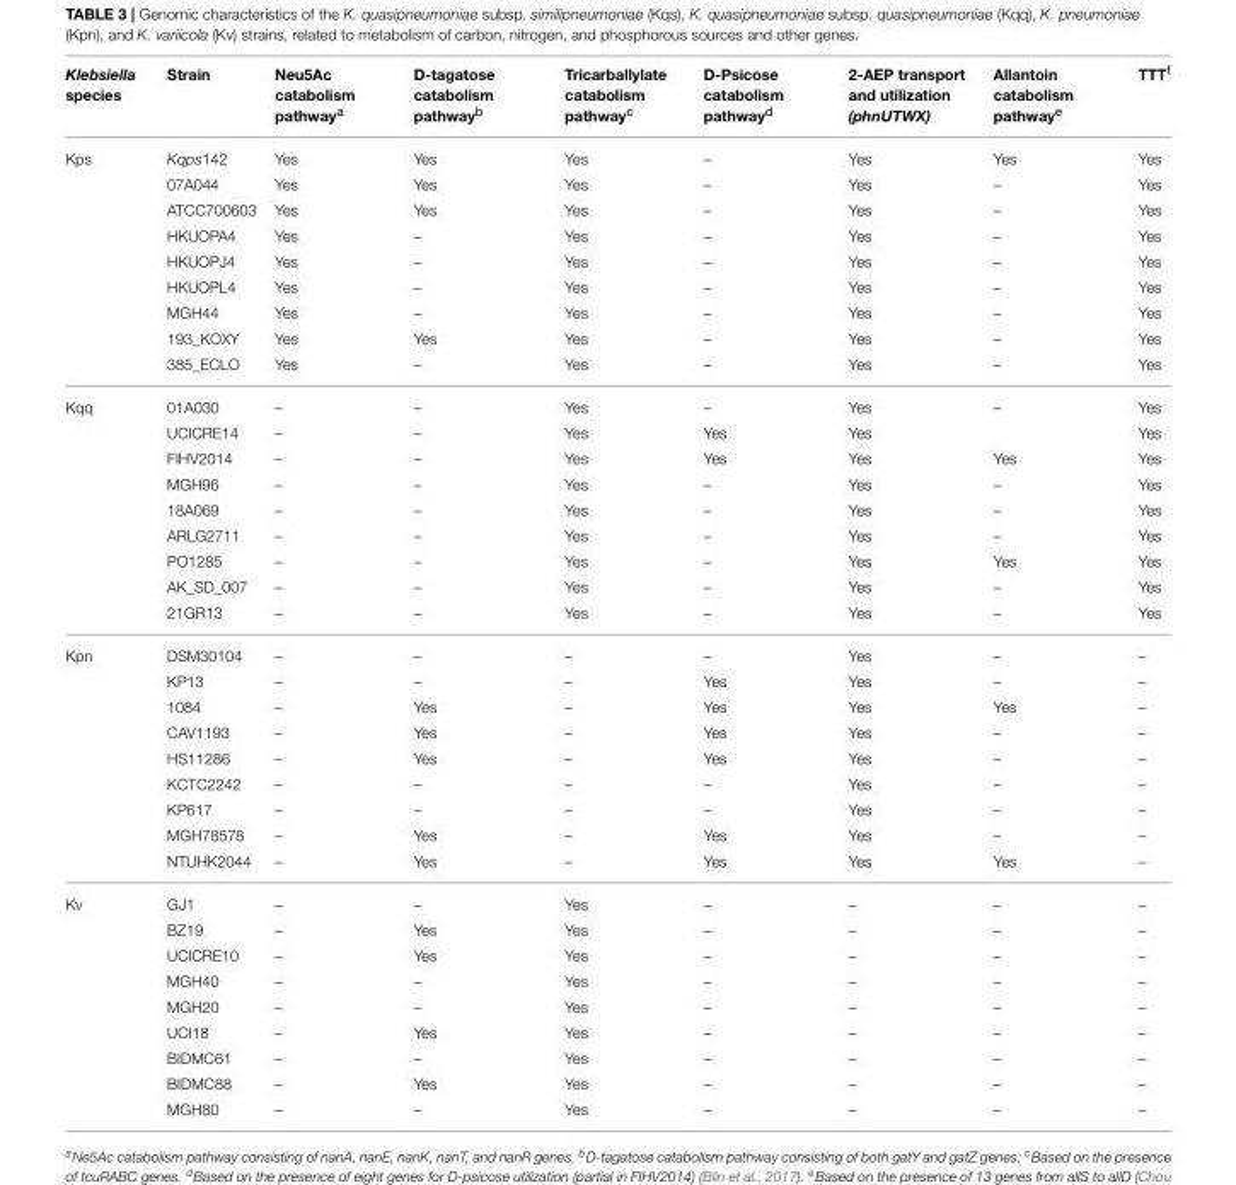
<table><thead><tr><td>Klebsiella species</td><td>Strain</td><td>Neu5Ac catabolism pathway<sup>a</sup></td><td>D-tagatose catabolism pathway<sup>b</sup></td><td>Tricarballylate catabolism pathway<sup>c</sup></td><td>D-Psicose catabolism pathway<sup>d</sup></td><td>2-AEP transport and utilization (phnUTWX)</td><td>Allantoin catabolism pathway<sup>e</sup></td><td>TTT<sup>f</sup></td></tr></thead><tbody><tr><td rowspan="9">Kps</td><td>Kqps142</td><td>Yes</td><td>Yes</td><td>Yes</td><td>–</td><td>Yes</td><td>Yes</td><td>Yes</td></tr><tr><td>07A044</td><td>Yes</td><td>Yes</td><td>Yes</td><td>–</td><td>Yes</td><td>–</td><td>Yes</td></tr><tr><td>ATCC700603</td><td>Yes</td><td>Yes</td><td>Yes</td><td>–</td><td>Yes</td><td>–</td><td>Yes</td></tr><tr><td>HKUOPA4</td><td>Yes</td><td>–</td><td>Yes</td><td>–</td><td>Yes</td><td>–</td><td>Yes</td></tr><tr><td>HKUOPJ4</td><td>Yes</td><td>–</td><td>Yes</td><td>–</td><td>Yes</td><td>–</td><td>Yes</td></tr><tr><td>HKUOPL4</td><td>Yes</td><td>–</td><td>Yes</td><td>–</td><td>Yes</td><td>–</td><td>Yes</td></tr><tr><td>MGH44</td><td>Yes</td><td>–</td><td>Yes</td><td>–</td><td>Yes</td><td>–</td><td>Yes</td></tr><tr><td>193_KOXY</td><td>Yes</td><td>Yes</td><td>Yes</td><td>–</td><td>Yes</td><td>–</td><td>Yes</td></tr><tr><td>385_ECLO</td><td>Yes</td><td>–</td><td>Yes</td><td>–</td><td>Yes</td><td>–</td><td>Yes</td></tr><tr><td rowspan="9">Kqq</td><td>01A030</td><td>–</td><td>–</td><td>Yes</td><td>–</td><td>Yes</td><td>–</td><td>Yes</td></tr><tr><td>UCICRE14</td><td>–</td><td>–</td><td>Yes</td><td>Yes</td><td>Yes</td><td></td><td>Yes</td></tr><tr><td>FIHV2014</td><td>–</td><td>–</td><td>Yes</td><td>Yes</td><td>Yes</td><td>Yes</td><td>Yes</td></tr><tr><td>MGH96</td><td>–</td><td>–</td><td>Yes</td><td>–</td><td>Yes</td><td>–</td><td>Yes</td></tr><tr><td>18A069</td><td>–</td><td>–</td><td>Yes</td><td>–</td><td>Yes</td><td>–</td><td>Yes</td></tr><tr><td>ARLG2711</td><td>–</td><td>–</td><td>Yes</td><td>–</td><td>Yes</td><td>–</td><td>Yes</td></tr><tr><td>PO1285</td><td>–</td><td>–</td><td>Yes</td><td>–</td><td>Yes</td><td>Yes</td><td>Yes</td></tr><tr><td>AK_SD_007</td><td>–</td><td>–</td><td>Yes</td><td>–</td><td>Yes</td><td>–</td><td>Yes</td></tr><tr><td>21GR13</td><td>–</td><td>–</td><td>Yes</td><td>–</td><td>Yes</td><td>–</td><td>Yes</td></tr><tr><td rowspan="9">Kpn</td><td>DSM30104</td><td>–</td><td>–</td><td>–</td><td>–</td><td>Yes</td><td>–</td><td>–</td></tr><tr><td>KP13</td><td>–</td><td>–</td><td>–</td><td>Yes</td><td>Yes</td><td>–</td><td>–</td></tr><tr><td>1084</td><td>–</td><td>Yes</td><td>–</td><td>Yes</td><td>Yes</td><td>Yes</td><td>–</td></tr><tr><td>CAV1193</td><td>–</td><td>Yes</td><td>–</td><td>Yes</td><td>Yes</td><td>–</td><td>–</td></tr><tr><td>HS11286</td><td>–</td><td>Yes</td><td>–</td><td>Yes</td><td>Yes</td><td>–</td><td>–</td></tr><tr><td>KCTC2242</td><td>–</td><td>–</td><td>–</td><td>–</td><td>Yes</td><td>–</td><td>–</td></tr><tr><td>KP617</td><td>–</td><td>–</td><td>–</td><td>–</td><td>Yes</td><td>–</td><td>–</td></tr><tr><td>MGH78578</td><td>–</td><td>Yes</td><td>–</td><td>Yes</td><td>Yes</td><td>–</td><td>–</td></tr><tr><td>NTUHK2044</td><td>–</td><td>Yes</td><td>–</td><td>Yes</td><td>Yes</td><td>Yes</td><td>–</td></tr><tr><td rowspan="9">Kv</td><td>GJ1</td><td>–</td><td>–</td><td>Yes</td><td>–</td><td>–</td><td>–</td><td>–</td></tr><tr><td>BZ19</td><td>–</td><td>Yes</td><td>Yes</td><td>–</td><td>–</td><td>–</td><td>–</td></tr><tr><td>UCICRE10</td><td>–</td><td>Yes</td><td>Yes</td><td>–</td><td>–</td><td>–</td><td>–</td></tr><tr><td>MGH40</td><td>–</td><td>–</td><td>Yes</td><td>–</td><td>–</td><td>–</td><td>–</td></tr><tr><td>MGH20</td><td>–</td><td>–</td><td>Yes</td><td>–</td><td>–</td><td>–</td><td>–</td></tr><tr><td>UCI18</td><td>–</td><td>Yes</td><td>Yes</td><td>–</td><td>–</td><td>–</td><td>–</td></tr><tr><td>BIDMC61</td><td>–</td><td>–</td><td>Yes</td><td>–</td><td>–</td><td>–</td><td>–</td></tr><tr><td>BIDMC88</td><td>–</td><td>Yes</td><td>Yes</td><td>–</td><td>–</td><td>–</td><td>–</td></tr><tr><td>MGH80</td><td>–</td><td>–</td><td>Yes</td><td>–</td><td>–</td><td>–</td><td>–</td></tr></tbody></table>